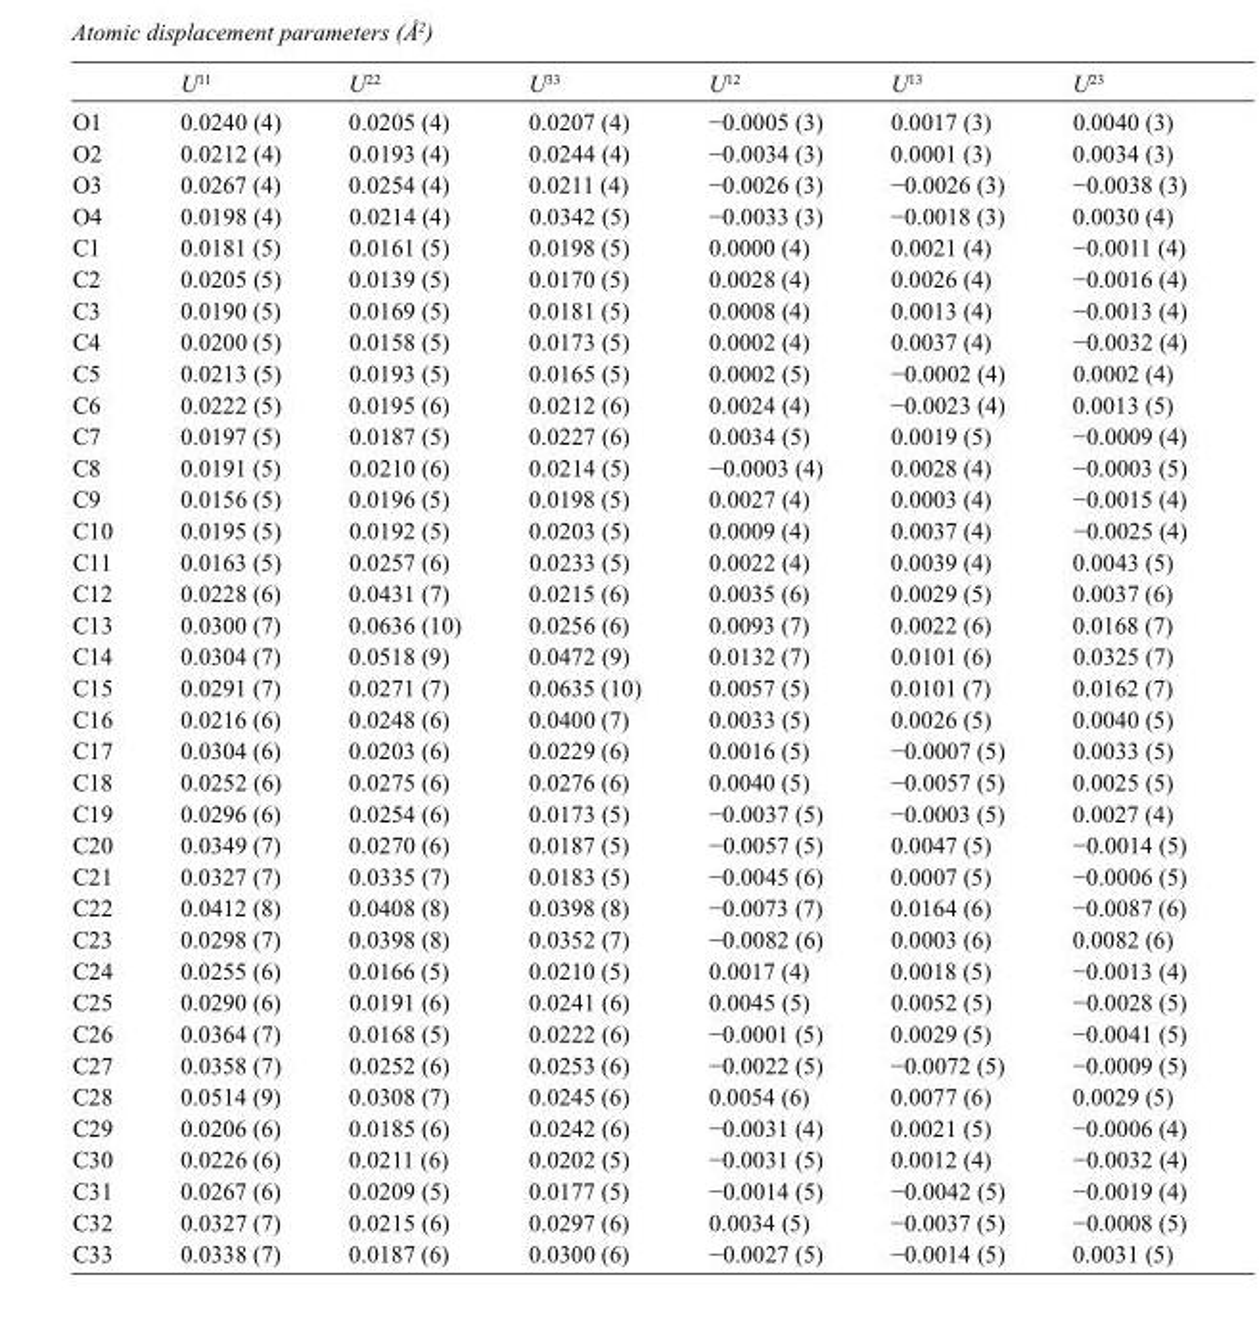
<table><thead><tr><td></td><td>U<sup>11</sup></td><td>U<sup>22</sup></td><td>U<sup>33</sup></td><td>U<sup>12</sup></td><td>U<sup>13</sup></td><td>U<sup>23</sup></td></tr></thead><tbody><tr><td>O1</td><td>0.0240 (4)</td><td>0.0205 (4)</td><td>0.0207 (4)</td><td>−0.0005 (3)</td><td>0.0017 (3)</td><td>0.0040 (3)</td></tr><tr><td>O2</td><td>0.0212 (4)</td><td>0.0193 (4)</td><td>0.0244 (4)</td><td>−0.0034 (3)</td><td>0.0001 (3)</td><td>0.0034 (3)</td></tr><tr><td>O3</td><td>0.0267 (4)</td><td>0.0254 (4)</td><td>0.0211 (4)</td><td>−0.0026 (3)</td><td>−0.0026 (3)</td><td>−0.0038 (3)</td></tr><tr><td>O4</td><td>0.0198 (4)</td><td>0.0214 (4)</td><td>0.0342 (5)</td><td>−0.0033 (3)</td><td>−0.0018 (3)</td><td>0.0030 (4)</td></tr><tr><td>C1</td><td>0.0181 (5)</td><td>0.0161 (5)</td><td>0.0198 (5)</td><td>0.0000 (4)</td><td>0.0021 (4)</td><td>−0.0011 (4)</td></tr><tr><td>C2</td><td>0.0205 (5)</td><td>0.0139 (5)</td><td>0.0170 (5)</td><td>0.0028 (4)</td><td>0.0026 (4)</td><td>−0.0016 (4)</td></tr><tr><td>C3</td><td>0.0190 (5)</td><td>0.0169 (5)</td><td>0.0181 (5)</td><td>0.0008 (4)</td><td>0.0013 (4)</td><td>−0.0013 (4)</td></tr><tr><td>C4</td><td>0.0200 (5)</td><td>0.0158 (5)</td><td>0.0173 (5)</td><td>0.0002 (4)</td><td>0.0037 (4)</td><td>−0.0032 (4)</td></tr><tr><td>C5</td><td>0.0213 (5)</td><td>0.0193 (5)</td><td>0.0165 (5)</td><td>0.0002 (5)</td><td>−0.0002 (4)</td><td>0.0002 (4)</td></tr><tr><td>C6</td><td>0.0222 (5)</td><td>0.0195 (6)</td><td>0.0212 (6)</td><td>0.0024 (4)</td><td>−0.0023 (4)</td><td>0.0013 (5)</td></tr><tr><td>C7</td><td>0.0197 (5)</td><td>0.0187 (5)</td><td>0.0227 (6)</td><td>0.0034 (5)</td><td>0.0019 (5)</td><td>−0.0009 (4)</td></tr><tr><td>C8</td><td>0.0191 (5)</td><td>0.0210 (6)</td><td>0.0214 (5)</td><td>−0.0003 (4)</td><td>0.0028 (4)</td><td>−0.0003 (5)</td></tr><tr><td>C9</td><td>0.0156 (5)</td><td>0.0196 (5)</td><td>0.0198 (5)</td><td>0.0027 (4)</td><td>0.0003 (4)</td><td>−0.0015 (4)</td></tr><tr><td>C10</td><td>0.0195 (5)</td><td>0.0192 (5)</td><td>0.0203 (5)</td><td>0.0009 (4)</td><td>0.0037 (4)</td><td>−0.0025 (4)</td></tr><tr><td>C11</td><td>0.0163 (5)</td><td>0.0257 (6)</td><td>0.0233 (5)</td><td>0.0022 (4)</td><td>0.0039 (4)</td><td>0.0043 (5)</td></tr><tr><td>C12</td><td>0.0228 (6)</td><td>0.0431 (7)</td><td>0.0215 (6)</td><td>0.0035 (6)</td><td>0.0029 (5)</td><td>0.0037 (6)</td></tr><tr><td>C13</td><td>0.0300 (7)</td><td>0.0636 (10)</td><td>0.0256 (6)</td><td>0.0093 (7)</td><td>0.0022 (6)</td><td>0.0168 (7)</td></tr><tr><td>C14</td><td>0.0304 (7)</td><td>0.0518 (9)</td><td>0.0472 (9)</td><td>0.0132 (7)</td><td>0.0101 (6)</td><td>0.0325 (7)</td></tr><tr><td>C15</td><td>0.0291 (7)</td><td>0.0271 (7)</td><td>0.0635 (10)</td><td>0.0057 (5)</td><td>0.0101 (7)</td><td>0.0162 (7)</td></tr><tr><td>C16</td><td>0.0216 (6)</td><td>0.0248 (6)</td><td>0.0400 (7)</td><td>0.0033 (5)</td><td>0.0026 (5)</td><td>0.0040 (5)</td></tr><tr><td>C17</td><td>0.0304 (6)</td><td>0.0203 (6)</td><td>0.0229 (6)</td><td>0.0016 (5)</td><td>−0.0007 (5)</td><td>0.0033 (5)</td></tr><tr><td>C18</td><td>0.0252 (6)</td><td>0.0275 (6)</td><td>0.0276 (6)</td><td>0.0040 (5)</td><td>−0.0057 (5)</td><td>0.0025 (5)</td></tr><tr><td>C19</td><td>0.0296 (6)</td><td>0.0254 (6)</td><td>0.0173 (5)</td><td>−0.0037 (5)</td><td>−0.0003 (5)</td><td>0.0027 (4)</td></tr><tr><td>C20</td><td>0.0349 (7)</td><td>0.0270 (6)</td><td>0.0187 (5)</td><td>−0.0057 (5)</td><td>0.0047 (5)</td><td>−0.0014 (5)</td></tr><tr><td>C21</td><td>0.0327 (7)</td><td>0.0335 (7)</td><td>0.0183 (5)</td><td>−0.0045 (6)</td><td>0.0007 (5)</td><td>−0.0006 (5)</td></tr><tr><td>C22</td><td>0.0412 (8)</td><td>0.0408 (8)</td><td>0.0398 (8)</td><td>−0.0073 (7)</td><td>0.0164 (6)</td><td>−0.0087 (6)</td></tr><tr><td>C23</td><td>0.0298 (7)</td><td>0.0398 (8)</td><td>0.0352 (7)</td><td>−0.0082 (6)</td><td>0.0003 (6)</td><td>0.0082 (6)</td></tr><tr><td>C24</td><td>0.0255 (6)</td><td>0.0166 (5)</td><td>0.0210 (5)</td><td>0.0017 (4)</td><td>0.0018 (5)</td><td>−0.0013 (4)</td></tr><tr><td>C25</td><td>0.0290 (6)</td><td>0.0191 (6)</td><td>0.0241 (6)</td><td>0.0045 (5)</td><td>0.0052 (5)</td><td>−0.0028 (5)</td></tr><tr><td>C26</td><td>0.0364 (7)</td><td>0.0168 (5)</td><td>0.0222 (6)</td><td>−0.0001 (5)</td><td>0.0029 (5)</td><td>−0.0041 (5)</td></tr><tr><td>C27</td><td>0.0358 (7)</td><td>0.0252 (6)</td><td>0.0253 (6)</td><td>−0.0022 (5)</td><td>−0.0072 (5)</td><td>−0.0009 (5)</td></tr><tr><td>C28</td><td>0.0514 (9)</td><td>0.0308 (7)</td><td>0.0245 (6)</td><td>0.0054 (6)</td><td>0.0077 (6)</td><td>0.0029 (5)</td></tr><tr><td>C29</td><td>0.0206 (6)</td><td>0.0185 (6)</td><td>0.0242 (6)</td><td>−0.0031 (4)</td><td>0.0021 (5)</td><td>−0.0006 (4)</td></tr><tr><td>C30</td><td>0.0226 (6)</td><td>0.0211 (6)</td><td>0.0202 (5)</td><td>−0.0031 (5)</td><td>0.0012 (4)</td><td>−0.0032 (4)</td></tr><tr><td>C31</td><td>0.0267 (6)</td><td>0.0209 (5)</td><td>0.0177 (5)</td><td>−0.0014 (5)</td><td>−0.0042 (5)</td><td>−0.0019 (4)</td></tr><tr><td>C32</td><td>0.0327 (7)</td><td>0.0215 (6)</td><td>0.0297 (6)</td><td>0.0034 (5)</td><td>−0.0037 (5)</td><td>−0.0008 (5)</td></tr><tr><td>C33</td><td>0.0338 (7)</td><td>0.0187 (6)</td><td>0.0300 (6)</td><td>−0.0027 (5)</td><td>−0.0014 (5)</td><td>0.0031 (5)</td></tr></tbody></table>